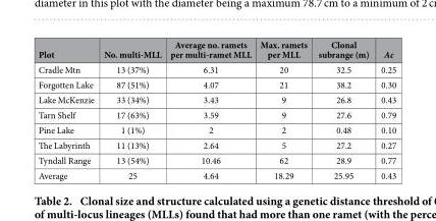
<table><thead><tr><td>Plot</td><td>No. multi-MLL</td><td>Average no. ramets per multi-ramet MLL</td><td>Max. ramets per MLL</td><td>Clonal subrange (m)</td><td>Ac</td></tr></thead><tbody><tr><td>Cradle Mtn</td><td>13 (37%)</td><td>6.31</td><td>20</td><td>32.5</td><td>0.25</td></tr><tr><td>Forgotten Lake</td><td>87 (51%)</td><td>4.07</td><td>21</td><td>38.2</td><td>0.30</td></tr><tr><td>Lake McKenzie</td><td>33 (34%)</td><td>3.43</td><td>9</td><td>26.8</td><td>0.43</td></tr><tr><td>Tarn Shelf</td><td>17 (63%)</td><td>3.59</td><td>9</td><td>27.6</td><td>0.79</td></tr><tr><td>Pine Lake</td><td>1 (1%)</td><td>2</td><td>2</td><td>0.48</td><td>0.10</td></tr><tr><td>The Labyrinth</td><td>11 (13%)</td><td>2.64</td><td>5</td><td>27.2</td><td>0.27</td></tr><tr><td>Tyndall Range</td><td>13 (54%)</td><td>10.46</td><td>62</td><td>28.9</td><td>0.77</td></tr><tr><td>Average</td><td>25</td><td>4.64</td><td>18.29</td><td>25.95</td><td>0.43</td></tr></tbody></table>